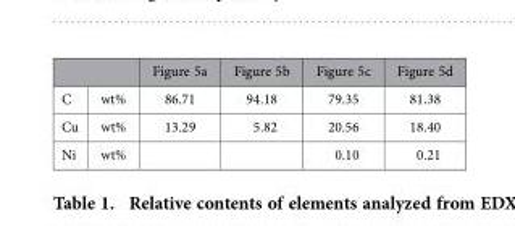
<table><thead><tr><td></td><td></td><td>Figure 5a</td><td>Figure 5b</td><td>Figure 5c</td><td>Figure 5d</td></tr></thead><tbody><tr><td>C</td><td>wt%</td><td>86.71</td><td>94.18</td><td>79.35</td><td>81.38</td></tr><tr><td>Cu</td><td>wt%</td><td>13.29</td><td>5.82</td><td>20.56</td><td>18.40</td></tr><tr><td>Ni</td><td>wt%</td><td></td><td></td><td>0.10</td><td>0.21</td></tr></tbody></table>